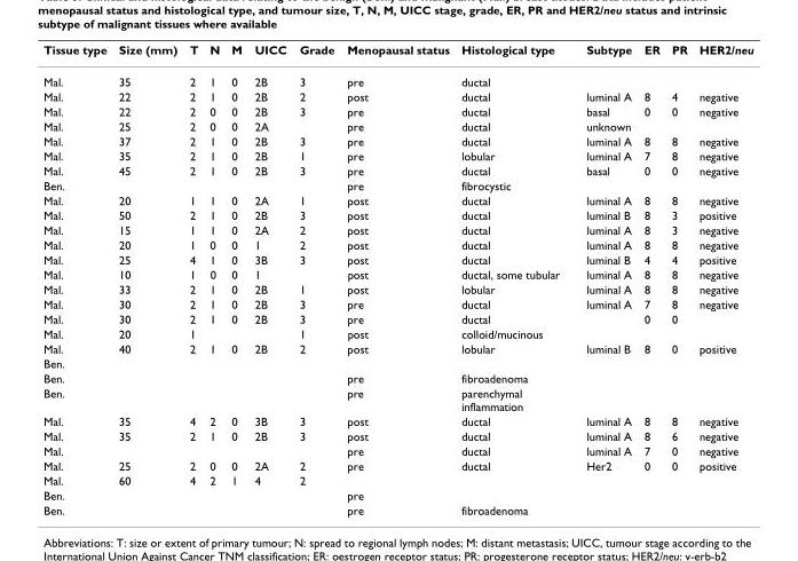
<table><thead><tr><td>Tissue type</td><td>Size (mm)</td><td>T</td><td>N</td><td>M</td><td>UICC</td><td>Grade</td><td>Menopausal status</td><td>Histological type</td><td>Subtype</td><td>ER</td><td>PR</td><td>HER2/neu</td></tr></thead><tbody><tr><td>Mal.</td><td>35</td><td>2</td><td>1</td><td>0</td><td>2B</td><td>3</td><td>pre</td><td>ductal</td><td></td><td></td><td></td><td></td></tr><tr><td>Mal.</td><td>22</td><td>2</td><td>1</td><td>0</td><td>2B</td><td>2</td><td>post</td><td>ductal</td><td>luminal A</td><td>8</td><td>4</td><td>negative</td></tr><tr><td>Mal.</td><td>22</td><td>2</td><td>0</td><td>0</td><td>2B</td><td>3</td><td>pre</td><td>ductal</td><td>basal</td><td>0</td><td>0</td><td>negative</td></tr><tr><td>Mal.</td><td>25</td><td>2</td><td>0</td><td>0</td><td>2A</td><td></td><td>pre</td><td>ductal</td><td>unknown</td><td></td><td></td><td></td></tr><tr><td>Mal.</td><td>37</td><td>2</td><td>1</td><td>0</td><td>2B</td><td>3</td><td>pre</td><td>ductal</td><td>luminal A</td><td>8</td><td>8</td><td>negative</td></tr><tr><td>Mal.</td><td>35</td><td>2</td><td>1</td><td>0</td><td>2B</td><td>1</td><td>pre</td><td>lobular</td><td>luminal A</td><td>7</td><td>8</td><td>negative</td></tr><tr><td>Mal.</td><td>45</td><td>2</td><td>1</td><td>0</td><td>2B</td><td>3</td><td>pre</td><td>ductal</td><td>basal</td><td>0</td><td>0</td><td>negative</td></tr><tr><td>Ben.</td><td></td><td></td><td></td><td></td><td></td><td></td><td>pre</td><td>fibrocystic</td><td></td><td></td><td></td><td></td></tr><tr><td>Mal.</td><td>20</td><td>1</td><td>1</td><td>0</td><td>2A</td><td>1</td><td>post</td><td>ductal</td><td>luminal A</td><td>8</td><td>8</td><td>negative</td></tr><tr><td>Mal.</td><td>50</td><td>2</td><td>1</td><td>0</td><td>2B</td><td>3</td><td>post</td><td>ductal</td><td>luminal B</td><td>8</td><td>3</td><td>positive</td></tr><tr><td>Mal.</td><td>15</td><td>1</td><td>1</td><td>0</td><td>2A</td><td>2</td><td>post</td><td>ductal</td><td>luminal A</td><td>8</td><td>3</td><td>negative</td></tr><tr><td>Mal.</td><td>20</td><td>1</td><td>0</td><td>0</td><td>1</td><td>2</td><td>post</td><td>ductal</td><td>luminal A</td><td>8</td><td>8</td><td>negative</td></tr><tr><td>Mal.</td><td>25</td><td>4</td><td>1</td><td>0</td><td>3B</td><td>3</td><td>post</td><td>ductal</td><td>luminal B</td><td>4</td><td>4</td><td>positive</td></tr><tr><td>Mal.</td><td>10</td><td>1</td><td>0</td><td>0</td><td>1</td><td></td><td>post</td><td>ductal, some tubular</td><td>luminal A</td><td>8</td><td>8</td><td>negative</td></tr><tr><td>Mal.</td><td>33</td><td>2</td><td>1</td><td>0</td><td>2B</td><td>1</td><td>post</td><td>lobular</td><td>luminal A</td><td>8</td><td>8</td><td>negative</td></tr><tr><td>Mal.</td><td>30</td><td>2</td><td>1</td><td>0</td><td>2B</td><td>3</td><td>pre</td><td>ductal</td><td>luminal A</td><td>7</td><td>8</td><td>negative</td></tr><tr><td>Mal.</td><td>30</td><td>2</td><td>1</td><td>0</td><td>2B</td><td>3</td><td>pre</td><td>ductal</td><td></td><td>0</td><td>0</td><td></td></tr><tr><td>Mal.</td><td>20</td><td>1</td><td></td><td></td><td></td><td>1</td><td>post</td><td>colloid/mucinous</td><td></td><td></td><td></td><td></td></tr><tr><td>Mal.</td><td>40</td><td>2</td><td>1</td><td>0</td><td>2B</td><td>2</td><td>post</td><td>lobular</td><td>luminal B</td><td>8</td><td>0</td><td>positive</td></tr><tr><td colspan="13">Ben.</td></tr><tr><td>Ben.</td><td></td><td></td><td></td><td></td><td></td><td></td><td>pre</td><td>fibroadenoma</td><td></td><td></td><td></td><td></td></tr><tr><td>Ben.</td><td></td><td></td><td></td><td></td><td></td><td></td><td>pre</td><td>parenchymal inflammation</td><td></td><td></td><td></td><td></td></tr><tr><td>Mal.</td><td>35</td><td>4</td><td>2</td><td>0</td><td>3B</td><td>3</td><td>post</td><td>ductal</td><td>luminal A</td><td>8</td><td>8</td><td>negative</td></tr><tr><td>Mal.</td><td>35</td><td>2</td><td>1</td><td>0</td><td>2B</td><td>3</td><td>post</td><td>ductal</td><td>luminal A</td><td>8</td><td>6</td><td>negative</td></tr><tr><td>Mal.</td><td></td><td></td><td></td><td></td><td></td><td></td><td>pre</td><td>ductal</td><td>luminal A</td><td>7</td><td>0</td><td>negative</td></tr><tr><td>Mal.</td><td>25</td><td>2</td><td>0</td><td>0</td><td>2A</td><td>2</td><td>pre</td><td>ductal</td><td>Her2</td><td>0</td><td>0</td><td>positive</td></tr><tr><td>Mal.</td><td>60</td><td>4</td><td>2</td><td>1</td><td>4</td><td>2</td><td></td><td></td><td></td><td></td><td></td><td></td></tr><tr><td>Ben.</td><td></td><td></td><td></td><td></td><td></td><td></td><td>pre</td><td></td><td></td><td></td><td></td><td></td></tr><tr><td>Ben.</td><td></td><td></td><td></td><td></td><td></td><td></td><td>pre</td><td>fibroadenoma</td><td></td><td></td><td></td><td></td></tr></tbody></table>